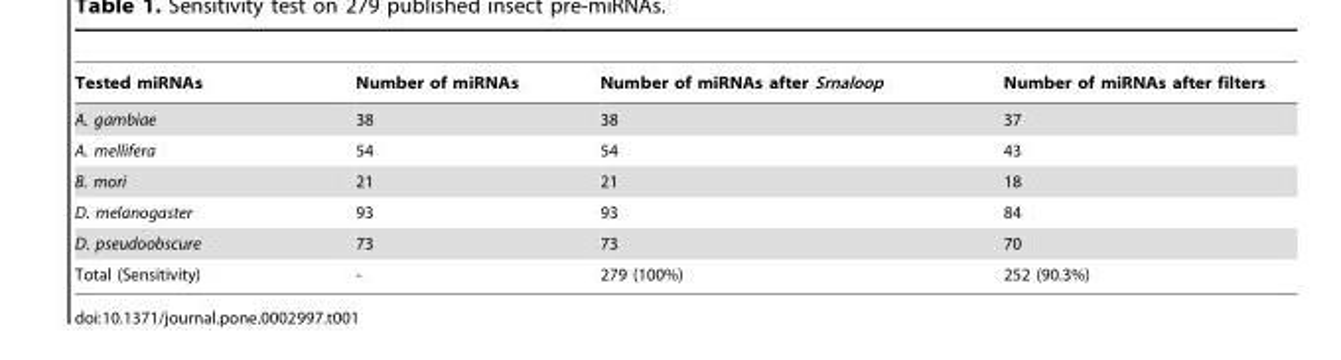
<table><thead><tr><td>Tested miRNAs</td><td>Number of miRNAs</td><td>Number of miRNAs after Srnaloop</td><td>Number of miRNAs after filters</td></tr></thead><tbody><tr><td>A. gambiae</td><td>38</td><td>38</td><td>37</td></tr><tr><td>A. mellifera</td><td>54</td><td>54</td><td>43</td></tr><tr><td>B. mori</td><td>21</td><td>21</td><td>18</td></tr><tr><td>D. melanogaster</td><td>93</td><td>93</td><td>84</td></tr><tr><td>D. pseudoobscure</td><td>73</td><td>73</td><td>70</td></tr><tr><td>Total (Sensitivity)</td><td>-</td><td>279 (100%)</td><td>252 (90.3%)</td></tr></tbody></table>